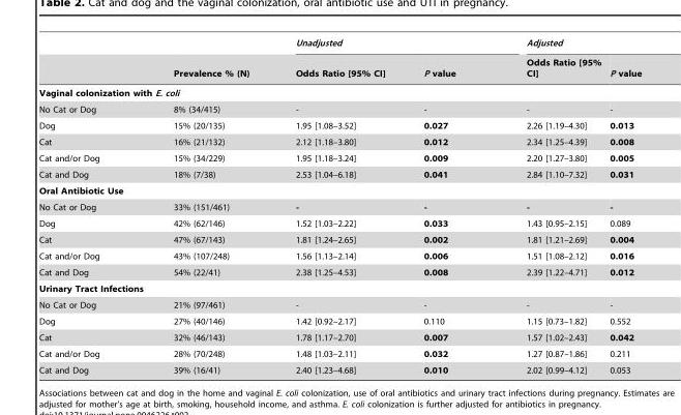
<table><thead><tr><td rowspan="2"></td><td rowspan="2">Prevalence % (N)</td><td colspan="2">Unadjusted</td><td colspan="2">Adjusted</td></tr><tr><td>Odds Ratio [95% CI]</td><td>P value</td><td>Odds Ratio [95% CI]</td><td>P value</td></tr></thead><tbody><tr><td colspan="6">Vaginal colonization with E. coli</td></tr><tr><td>No Cat or Dog</td><td>8% (34/415)</td><td>-</td><td>-</td><td>-</td><td>-</td></tr><tr><td>Dog</td><td>15% (20/135)</td><td>1.95 [1.08–3.52]</td><td>0.027</td><td>2.26 [1.19–4.30]</td><td>0.013</td></tr><tr><td>Cat</td><td>16% (21/132)</td><td>2.12 [1.18–3.80]</td><td>0.012</td><td>2.34 [1.25–4.39]</td><td>0.008</td></tr><tr><td>Cat and/or Dog</td><td>15% (34/229)</td><td>1.95 [1.18–3.24]</td><td>0.009</td><td>2.20 [1.27–3.80]</td><td>0.005</td></tr><tr><td>Cat and Dog</td><td>18% (7/38)</td><td>2.53 [1.04–6.18]</td><td>0.041</td><td>2.84 [1.10–7.32]</td><td>0.031</td></tr><tr><td colspan="6">Oral Antibiotic Use</td></tr><tr><td>No Cat or Dog</td><td>33% (151/461)</td><td>-</td><td>-</td><td>-</td><td>-</td></tr><tr><td>Dog</td><td>42% (62/146)</td><td>1.52 [1.03–2.22]</td><td>0.033</td><td>1.43 [0.95–2.15]</td><td>0.089</td></tr><tr><td>Cat</td><td>47% (67/143)</td><td>1.81 [1.24–2.65]</td><td>0.002</td><td>1.81 [1.21–2.69]</td><td>0.004</td></tr><tr><td>Cat and/or Dog</td><td>43% (107/248)</td><td>1.56 [1.13–2.14]</td><td>0.006</td><td>1.51 [1.08–2.12]</td><td>0.016</td></tr><tr><td>Cat and Dog</td><td>54% (22/41)</td><td>2.38 [1.25–4.53]</td><td>0.008</td><td>2.39 [1.22–4.71]</td><td>0.012</td></tr><tr><td colspan="6">Urinary Tract Infections</td></tr><tr><td>No Cat or Dog</td><td>21% (97/461)</td><td>-</td><td>-</td><td>-</td><td>-</td></tr><tr><td>Dog</td><td>27% (40/146)</td><td>1.42 [0.92–2.17]</td><td>0.110</td><td>1.15 [0.73–1.82]</td><td>0.552</td></tr><tr><td>Cat</td><td>32% (46/143)</td><td>1.78 [1.17–2.70]</td><td>0.007</td><td>1.57 [1.02–2.43]</td><td>0.042</td></tr><tr><td>Cat and/or Dog</td><td>28% (70/248)</td><td>1.48 [1.03–2.11]</td><td>0.032</td><td>1.27 [0.87–1.86]</td><td>0.211</td></tr><tr><td>Cat and Dog</td><td>39% (16/41)</td><td>2.40 [1.23–4.68]</td><td>0.010</td><td>2.02 [0.99–4.12]</td><td>0.053</td></tr></tbody></table>